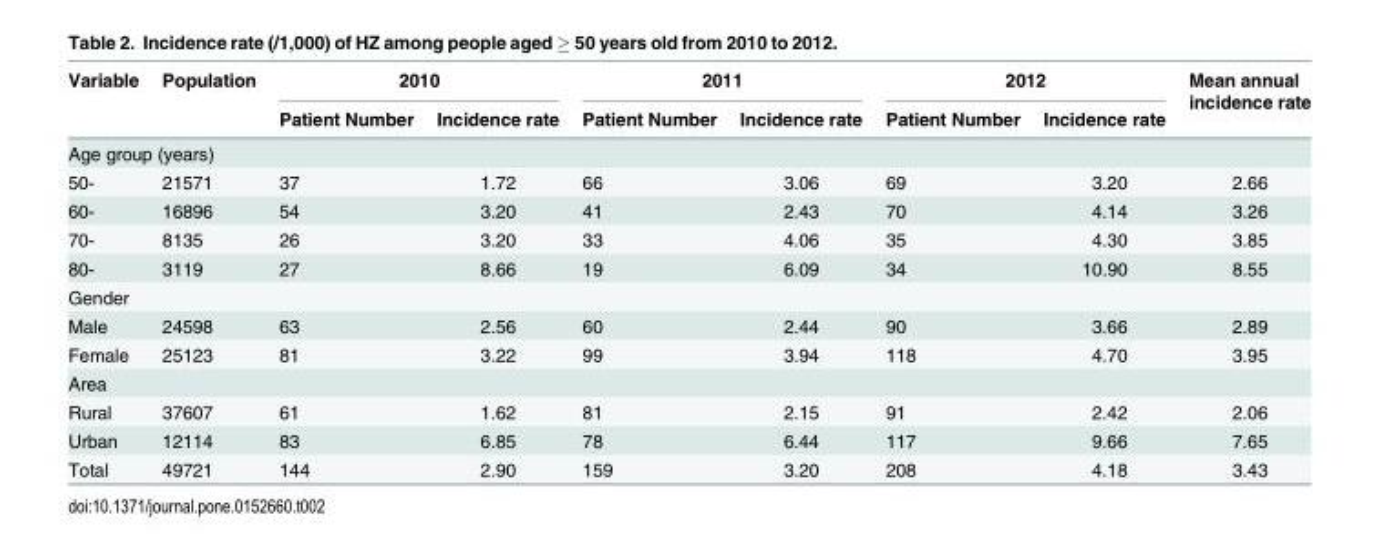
<table><thead><tr><td rowspan="2">Variable</td><td rowspan="2">Population</td><td colspan="2">2010</td><td colspan="2">2011</td><td colspan="2">2012</td><td rowspan="2">Mean annual incidence rate</td></tr><tr><td>Patient Number</td><td>Incidence rate</td><td>Patient Number</td><td>Incidence rate</td><td>Patient Number</td><td>Incidence rate</td></tr></thead><tbody><tr><td colspan="9">Age group (years)</td></tr><tr><td>50-</td><td>21571</td><td>37</td><td>1.72</td><td>66</td><td>3.06</td><td>69</td><td>3.20</td><td>2.66</td></tr><tr><td>60-</td><td>16896</td><td>54</td><td>3.20</td><td>41</td><td>2.43</td><td>70</td><td>4.14</td><td>3.26</td></tr><tr><td>70-</td><td>8135</td><td>26</td><td>3.20</td><td>33</td><td>4.06</td><td>35</td><td>4.30</td><td>3.85</td></tr><tr><td>80-</td><td>3119</td><td>27</td><td>8.66</td><td>19</td><td>6.09</td><td>34</td><td>10.90</td><td>8.55</td></tr><tr><td colspan="9">Gender</td></tr><tr><td>Male</td><td>24598</td><td>63</td><td>2.56</td><td>60</td><td>2.44</td><td>90</td><td>3.66</td><td>2.89</td></tr><tr><td>Female</td><td>25123</td><td>81</td><td>3.22</td><td>99</td><td>3.94</td><td>118</td><td>4.70</td><td>3.95</td></tr><tr><td colspan="9">Area</td></tr><tr><td>Rural</td><td>37607</td><td>61</td><td>1.62</td><td>81</td><td>2.15</td><td>91</td><td>2.42</td><td>2.06</td></tr><tr><td>Urban</td><td>12114</td><td>83</td><td>6.85</td><td>78</td><td>6.44</td><td>117</td><td>9.66</td><td>7.65</td></tr><tr><td>Total</td><td>49721</td><td>144</td><td>2.90</td><td>159</td><td>3.20</td><td>208</td><td>4.18</td><td>3.43</td></tr></tbody></table>